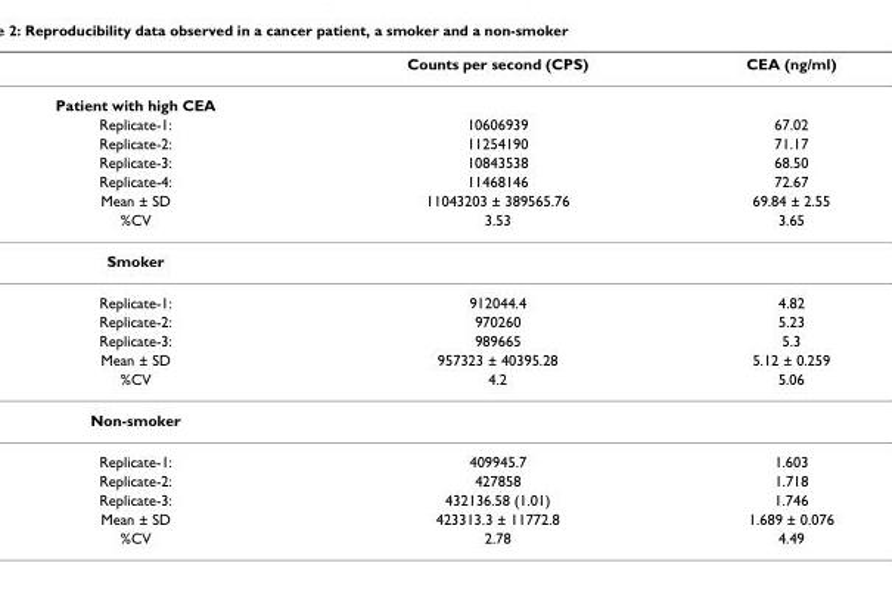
<table><thead><tr><td></td><td>Counts per second (CPS)</td><td>CEA (ng/ml)</td></tr></thead><tbody><tr><td colspan="3">Patient with high CEA</td></tr><tr><td>Replicate-1:</td><td>10606939</td><td>67.02</td></tr><tr><td>Replicate-2:</td><td>11254190</td><td>71.17</td></tr><tr><td>Replicate-3:</td><td>10843538</td><td>68.50</td></tr><tr><td>Replicate-4:</td><td>11468146</td><td>72.67</td></tr><tr><td>Mean ± SD</td><td>11043203 ± 389565.76</td><td>69.84 ± 2.55</td></tr><tr><td>%CV</td><td>3.53</td><td>3.65</td></tr><tr><td colspan="3">Smoker</td></tr><tr><td>Replicate-1:</td><td>912044.4</td><td>4.82</td></tr><tr><td>Replicate-2:</td><td>970260</td><td>5.23</td></tr><tr><td>Replicate-3:</td><td>989665</td><td>5.3</td></tr><tr><td>Mean ± SD</td><td>957323 ± 40395.28</td><td>5.12 ± 0.259</td></tr><tr><td>%CV</td><td>4.2</td><td>5.06</td></tr><tr><td colspan="3">Non-smoker</td></tr><tr><td>Replicate-1:</td><td>409945.7</td><td>1.603</td></tr><tr><td>Replicate-2:</td><td>427858</td><td>1.718</td></tr><tr><td>Replicate-3:</td><td>432136.58 (1.01)</td><td>1.746</td></tr><tr><td>Mean ± SD</td><td>423313.3 ± 11772.8</td><td>1.689 ± 0.076</td></tr><tr><td>%CV</td><td>2.78</td><td>4.49</td></tr></tbody></table>